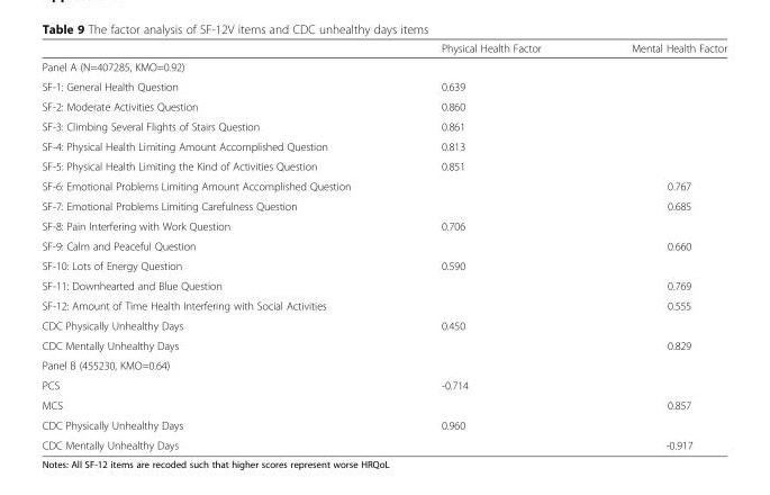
<table><thead><tr><td></td><td>Physical Health Factor</td><td>Mental Health Factor</td></tr></thead><tbody><tr><td colspan="3">Panel A (N=407285, KMO=0.92)</td></tr><tr><td>SF-1: General Health Question</td><td>0.639</td><td></td></tr><tr><td>SF-2: Moderate Activities Question</td><td>0.860</td><td></td></tr><tr><td>SF-3: Climbing Several Flights of Stairs Question</td><td>0.861</td><td></td></tr><tr><td>SF-4: Physical Health Limiting Amount Accomplished Question</td><td>0.813</td><td></td></tr><tr><td>SF-5: Physical Health Limiting the Kind of Activities Question</td><td>0.851</td><td></td></tr><tr><td>SF-6: Emotional Problems Limiting Amount Accomplished Question</td><td></td><td>0.767</td></tr><tr><td>SF-7: Emotional Problems Limiting Carefulness Question</td><td></td><td>0.685</td></tr><tr><td>SF-8: Pain Interfering with Work Question</td><td>0.706</td><td></td></tr><tr><td>SF-9: Calm and Peaceful Question</td><td></td><td>0.660</td></tr><tr><td>SF-10: Lots of Energy Question</td><td>0.590</td><td></td></tr><tr><td>SF-11: Downhearted and Blue Question</td><td></td><td>0.769</td></tr><tr><td>SF-12: Amount of Time Health Interfering with Social Activities</td><td></td><td>0.555</td></tr><tr><td>CDC Physically Unhealthy Days</td><td>0.450</td><td></td></tr><tr><td>CDC Mentally Unhealthy Days</td><td></td><td>0.829</td></tr><tr><td colspan="3">Panel B (455230, KMO=0.64)</td></tr><tr><td>PCS</td><td>-0.714</td><td></td></tr><tr><td>MCS</td><td></td><td>0.857</td></tr><tr><td>CDC Physically Unhealthy Days</td><td>0.960</td><td></td></tr><tr><td>CDC Mentally Unhealthy Days</td><td></td><td>-0.917</td></tr></tbody></table>